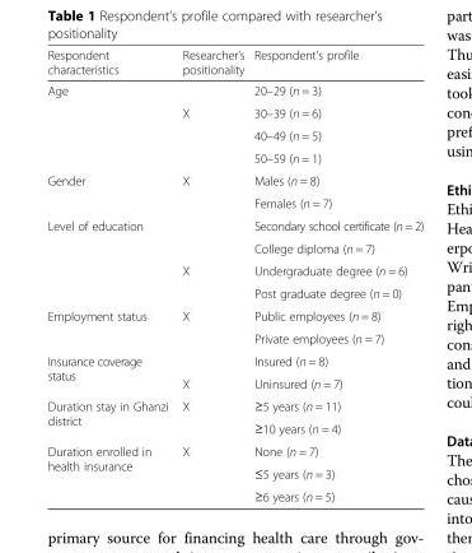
<table><thead><tr><td>Respondent characteristics</td><td>Researcher’s positionality</td><td>Respondent’s profile</td></tr></thead><tbody><tr><td rowspan="4">Age</td><td></td><td>20–29 (n = 3)</td></tr><tr><td>X</td><td>30–39 (n = 6)</td></tr><tr><td></td><td>40–49 (n = 5)</td></tr><tr><td></td><td>50–59 (n = 1)</td></tr><tr><td rowspan="2">Gender</td><td>X</td><td>Males (n = 8)</td></tr><tr><td></td><td>Females (n = 7)</td></tr><tr><td rowspan="4">Level of education</td><td></td><td>Secondary school certificate (n = 2)</td></tr><tr><td></td><td>College diploma (n = 7)</td></tr><tr><td>X</td><td>Undergraduate degree (n = 6)</td></tr><tr><td></td><td>Post graduate degree (n = 0)</td></tr><tr><td rowspan="2">Employment status</td><td>X</td><td>Public employees (n = 8)</td></tr><tr><td></td><td>Private employees (n = 7)</td></tr><tr><td rowspan="2">Insurance coverage status</td><td></td><td>Insured (n = 8)</td></tr><tr><td>X</td><td>Uninsured (n = 7)</td></tr><tr><td rowspan="2">Duration stay in Ghanzi district</td><td>X</td><td>≥5 years (n = 11)</td></tr><tr><td></td><td>≥10 years (n = 4)</td></tr><tr><td rowspan="3">Duration enrolled in health insurance</td><td>X</td><td>None (n = 7)</td></tr><tr><td></td><td>≤5 years (n = 3)</td></tr><tr><td></td><td>≥6 years (n = 5)</td></tr></tbody></table>